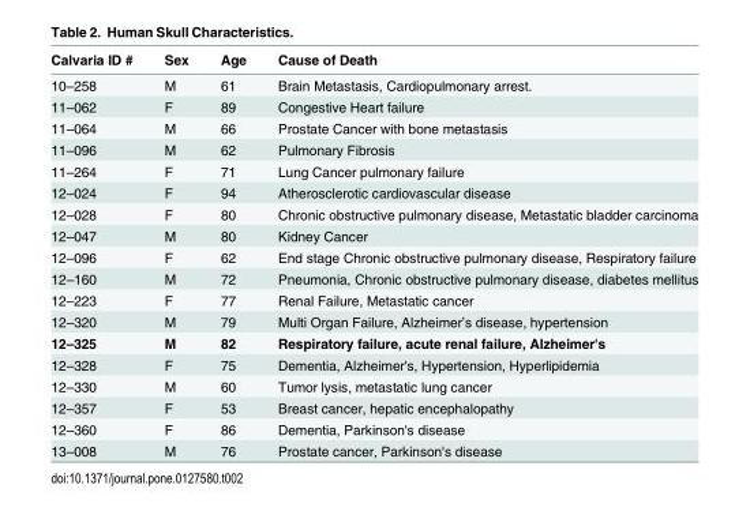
<table><thead><tr><td>Calvaria ID #</td><td>Sex</td><td>Age</td><td>Cause of Death</td></tr></thead><tbody><tr><td>10–258</td><td>M</td><td>61</td><td>Brain Metastasis, Cardiopulmonary arrest.</td></tr><tr><td>11–062</td><td>F</td><td>89</td><td>Congestive Heart failure</td></tr><tr><td>11–064</td><td>M</td><td>66</td><td>Prostate Cancer with bone metastasis</td></tr><tr><td>11–096</td><td>M</td><td>62</td><td>Pulmonary Fibrosis</td></tr><tr><td>11–264</td><td>F</td><td>71</td><td>Lung Cancer pulmonary failure</td></tr><tr><td>12–024</td><td>F</td><td>94</td><td>Atherosclerotic cardiovascular disease</td></tr><tr><td>12–028</td><td>F</td><td>80</td><td>Chronic obstructive pulmonary disease, Metastatic bladder carcinoma</td></tr><tr><td>12–047</td><td>M</td><td>80</td><td>Kidney Cancer</td></tr><tr><td>12–096</td><td>F</td><td>62</td><td>End stage Chronic obstructive pulmonary disease, Respiratory failure</td></tr><tr><td>12–160</td><td>M</td><td>72</td><td>Pneumonia, Chronic obstructive pulmonary disease, diabetes mellitus</td></tr><tr><td>12–223</td><td>F</td><td>77</td><td>Renal Failure, Metastatic cancer</td></tr><tr><td>12–320</td><td>M</td><td>79</td><td>Multi Organ Failure, Alzheimer’s disease, hypertension</td></tr><tr><td>12–325</td><td>M</td><td>82</td><td>Respiratory failure, acute renal failure, Alzheimer&#x27;s</td></tr><tr><td>12–328</td><td>F</td><td>75</td><td>Dementia, Alzheimer&#x27;s, Hypertension, Hyperlipidemia</td></tr><tr><td>12–330</td><td>M</td><td>60</td><td>Tumor lysis, metastatic lung cancer</td></tr><tr><td>12–357</td><td>F</td><td>53</td><td>Breast cancer, hepatic encephalopathy</td></tr><tr><td>12–360</td><td>F</td><td>86</td><td>Dementia, Parkinson&#x27;s disease</td></tr><tr><td>13–008</td><td>M</td><td>76</td><td>Prostate cancer, Parkinson&#x27;s disease</td></tr></tbody></table>